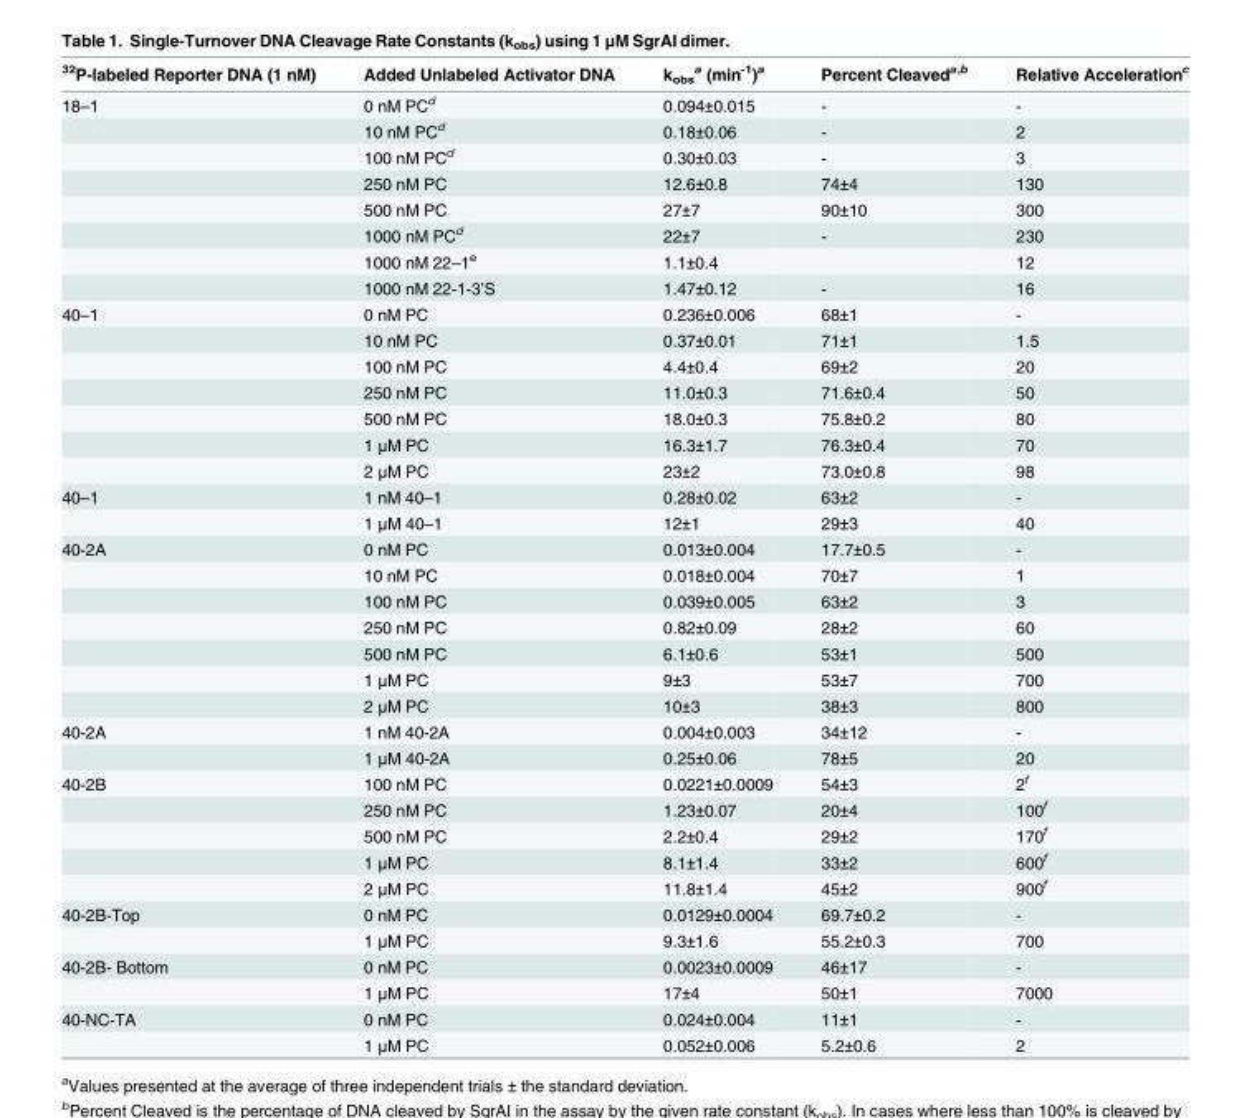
<table><thead><tr><td><sup>32</sup>P-labeled Reporter DNA (1 nM)</td><td>Added Unlabeled Activator DNA</td><td>k<sub>obs</sub> <sup>a</sup> (min<sup>-1</sup>)<sup>a</sup></td><td>Percent Cleaved<sup>a,b</sup></td><td>Relative Acceleration<sup>c</sup></td></tr></thead><tbody><tr><td rowspan="8">18–1</td><td>0 nM PC<sup>d</sup></td><td>0.094±0.015</td><td>-</td><td>-</td></tr><tr><td>10 nM PC<sup>d</sup></td><td>0.18±0.06</td><td>-</td><td>2</td></tr><tr><td>100 nM PC<sup>d</sup></td><td>0.30±0.03</td><td>-</td><td>3</td></tr><tr><td>250 nM PC</td><td>12.6±0.8</td><td>74±4</td><td>130</td></tr><tr><td>500 nM PC</td><td>27±7</td><td>90±10</td><td>300</td></tr><tr><td>1000 nM PC<sup>d</sup></td><td>22±7</td><td>-</td><td>230</td></tr><tr><td>1000 nM 22–1<sup>e</sup></td><td>1.1±0.4</td><td></td><td>12</td></tr><tr><td>1000 nM 22-1-3’S</td><td>1.47±0.12</td><td>-</td><td>16</td></tr><tr><td rowspan="7">40–1</td><td>0 nM PC</td><td>0.236±0.006</td><td>68±1</td><td>-</td></tr><tr><td>10 nM PC</td><td>0.37±0.01</td><td>71±1</td><td>1.5</td></tr><tr><td>100 nM PC</td><td>4.4±0.4</td><td>69±2</td><td>20</td></tr><tr><td>250 nM PC</td><td>11.0±0.3</td><td>71.6±0.4</td><td>50</td></tr><tr><td>500 nM PC</td><td>18.0±0.3</td><td>75.8±0.2</td><td>80</td></tr><tr><td>1 μM PC</td><td>16.3±1.7</td><td>76.3±0.4</td><td>70</td></tr><tr><td>2 μM PC</td><td>23±2</td><td>73.0±0.8</td><td>98</td></tr><tr><td rowspan="2">40–1</td><td>1 nM 40–1</td><td>0.28±0.02</td><td>63±2</td><td>-</td></tr><tr><td>1 μM 40–1</td><td>12±1</td><td>29±3</td><td>40</td></tr><tr><td rowspan="7">40-2A</td><td>0 nM PC</td><td>0.013±0.004</td><td>17.7±0.5</td><td>-</td></tr><tr><td>10 nM PC</td><td>0.018±0.004</td><td>70±7</td><td>1</td></tr><tr><td>100 nM PC</td><td>0.039±0.005</td><td>63±2</td><td>3</td></tr><tr><td>250 nM PC</td><td>0.82±0.09</td><td>28±2</td><td>60</td></tr><tr><td>500 nM PC</td><td>6.1±0.6</td><td>53±1</td><td>500</td></tr><tr><td>1 μM PC</td><td>9±3</td><td>53±7</td><td>700</td></tr><tr><td>2 μM PC</td><td>10±3</td><td>38±3</td><td>800</td></tr><tr><td rowspan="2">40-2A</td><td>1 nM 40-2A</td><td>0.004±0.003</td><td>34±12</td><td>-</td></tr><tr><td>1 μM 40-2A</td><td>0.25±0.06</td><td>78±5</td><td>20</td></tr><tr><td rowspan="5">40-2B</td><td>100 nM PC</td><td>0.0221±0.0009</td><td>54±3</td><td>2<sup>f</sup></td></tr><tr><td>250 nM PC</td><td>1.23±0.07</td><td>20±4</td><td>100<sup>f</sup></td></tr><tr><td>500 nM PC</td><td>2.2±0.4</td><td>29±2</td><td>170<sup>f</sup></td></tr><tr><td>1 μM PC</td><td>8.1±1.4</td><td>33±2</td><td>600<sup>f</sup></td></tr><tr><td>2 μM PC</td><td>11.8±1.4</td><td>45±2</td><td>900<sup>f</sup></td></tr><tr><td rowspan="2">40-2B-Top</td><td>0 nM PC</td><td>0.0129±0.0004</td><td>69.7±0.2</td><td>-</td></tr><tr><td>1 μM PC</td><td>9.3±1.6</td><td>55.2±0.3</td><td>700</td></tr><tr><td rowspan="2">40-2B- Bottom</td><td>0 nM PC</td><td>0.0023±0.0009</td><td>46±17</td><td>-</td></tr><tr><td>1 μM PC</td><td>17±4</td><td>50±1</td><td>7000</td></tr><tr><td rowspan="2">40-NC-TA</td><td>0 nM PC</td><td>0.024±0.004</td><td>11±1</td><td>-</td></tr><tr><td>1 μM PC</td><td>0.052±0.006</td><td>5.2±0.6</td><td>2</td></tr></tbody></table>